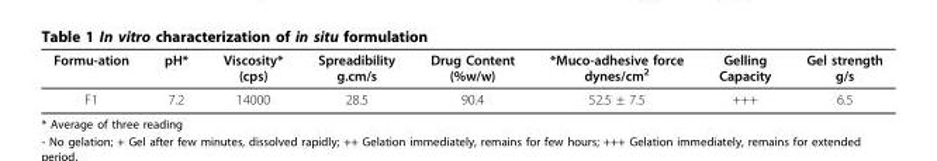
<table><thead><tr><td>Formu-ation</td><td>pH*</td><td>Viscosity* (cps)</td><td>Spreadibility g.cm/s</td><td>Drug Content (%w/w)</td><td>*Muco-adhesive force dynes/cm<sup>2</sup></td><td>Gelling Capacity</td><td>Gel strength g/s</td></tr></thead><tbody><tr><td>F1</td><td>7.2</td><td>14000</td><td>28.5</td><td>90.4</td><td>52.5 ± 7.5</td><td>+++</td><td>6.5</td></tr></tbody></table>